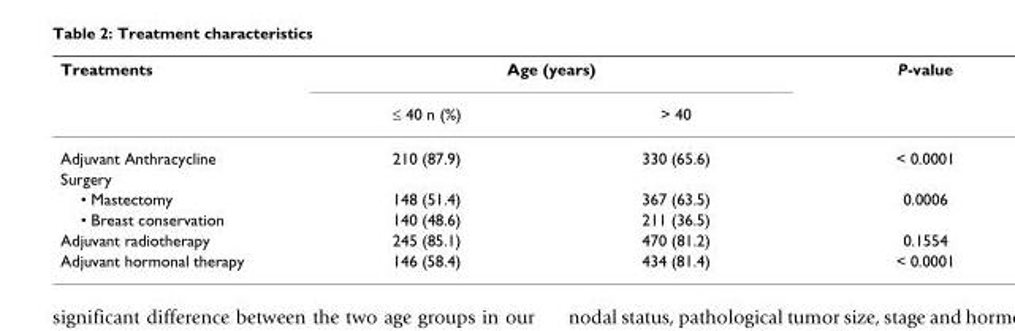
<table><thead><tr><td rowspan="2">Treatments</td><td colspan="2">Age (years)</td><td rowspan="2">P-value</td></tr><tr><td>≤ 40 n (%)</td><td>&gt; 40</td></tr></thead><tbody><tr><td>Adjuvant Anthracycline</td><td>210 (87.9)</td><td>330 (65.6)</td><td>&lt; 0.0001</td></tr><tr><td colspan="4">Surgery</td></tr><tr><td>• Mastectomy</td><td>148 (51.4)</td><td>367 (63.5)</td><td>0.0006</td></tr><tr><td>• Breast conservation</td><td>140 (48.6)</td><td>211 (36.5)</td><td></td></tr><tr><td>Adjuvant radiotherapy</td><td>245 (85.1)</td><td>470 (81.2)</td><td>0.1554</td></tr><tr><td>Adjuvant hormonal therapy</td><td>146 (58.4)</td><td>434 (81.4)</td><td>&lt; 0.0001</td></tr></tbody></table>